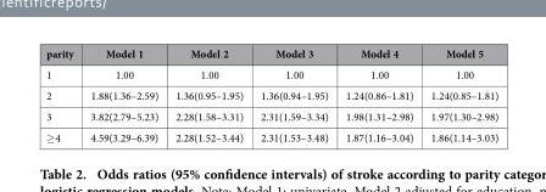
<table><thead><tr><td>parity</td><td>Model 1</td><td>Model 2</td><td>Model 3</td><td>Model 4</td><td>Model 5</td></tr></thead><tbody><tr><td>1</td><td>1.00</td><td>1.00</td><td>1.00</td><td>1.00</td><td>1.00</td></tr><tr><td>2</td><td>1.88(1.36–2.59)</td><td>1.36(0.95–1.95)</td><td>1.36(0.94–1.95)</td><td>1.24(0.86–1.81)</td><td>1.24(0.85–1.81)</td></tr><tr><td>3</td><td>3.82(2.79–5.23)</td><td>2.28(1.58–3.31)</td><td>2.31(1.59–3.34)</td><td>1.98(1.31–2.98)</td><td>1.97(1.30–2.98)</td></tr><tr><td>≥ 4</td><td>4.59(3.29–6.39)</td><td>2.28(1.52–3.44)</td><td>2.31(1.53–3.48)</td><td>1.87(1.16–3.04)</td><td>1.86(1.14–3.03)</td></tr></tbody></table>